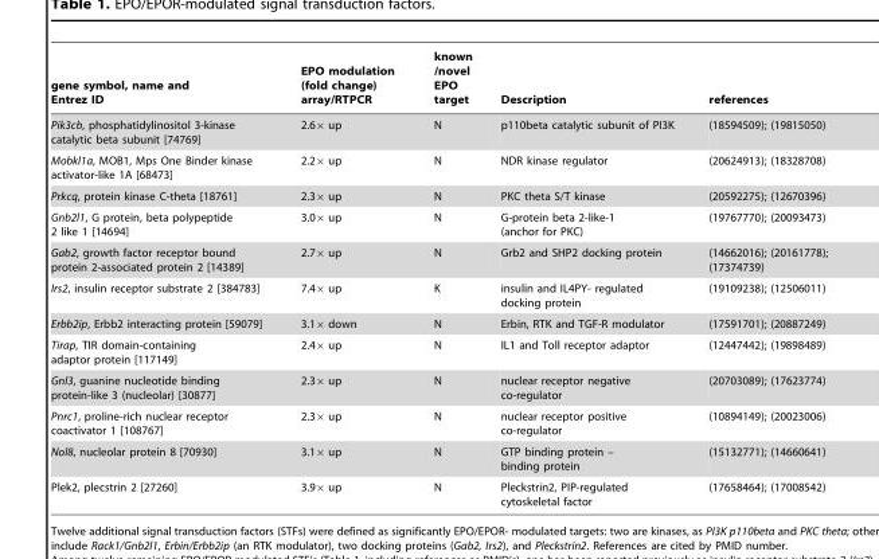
<table><thead><tr><td>gene symbol, name and Entrez ID</td><td>EPO modulation (fold change) array/RTPCR</td><td>known /novel EPO target</td><td>Description</td><td>references</td></tr></thead><tbody><tr><td>Pik3cb, phosphatidylinositol 3-kinase catalytic beta subunit [74769]</td><td>2.6× up</td><td>N</td><td>p110beta catalytic subunit of PI3K</td><td>(18594509); (19815050)</td></tr><tr><td>Mobkl1a, MOB1, Mps One Binder kinase activator-like 1A [68473]</td><td>2.2× up</td><td>N</td><td>NDR kinase regulator</td><td>(20624913); (18328708)</td></tr><tr><td>Prkcq, protein kinase C-theta [18761]</td><td>2.3× up</td><td>N</td><td>PKC theta S/T kinase</td><td>(20592275); (12670396)</td></tr><tr><td>Gnb2l1, G protein, beta polypeptide 2 like 1 [14694]</td><td>3.0× up</td><td>N</td><td>G-protein beta 2-like-1 (anchor for PKC)</td><td>(19767770); (20093473)</td></tr><tr><td>Gab2, growth factor receptor bound protein 2-associated protein 2 [14389]</td><td>2.7× up</td><td>N</td><td>Grb2 and SHP2 docking protein</td><td>(14662016); (20161778); (17374739)</td></tr><tr><td>Irs2, insulin receptor substrate 2 [384783]</td><td>7.4× up</td><td>K</td><td>insulin and IL4PY- regulated docking protein</td><td>(19109238); (12506011)</td></tr><tr><td>Erbb2ip, Erbb2 interacting protein [59079]</td><td>3.1× down</td><td>N</td><td>Erbin, RTK and TGF-R modulator</td><td>(17591701); (20887249)</td></tr><tr><td>Tirap, TIR domain-containing adaptor protein [117149]</td><td>2.4× up</td><td>N</td><td>IL1 and Toll receptor adaptor</td><td>(12447442); (19898489)</td></tr><tr><td>Gnl3, guanine nucleotide binding protein-like 3 (nucleolar) [30877]</td><td>2.3× up</td><td>N</td><td>nuclear receptor negative co-regulator</td><td>(20703089); (17623774)</td></tr><tr><td>Pnrc1, proline-rich nuclear receptor coactivator 1 [108767]</td><td>2.3× up</td><td>N</td><td>nuclear receptor positive co-regulator</td><td>(10894149); (20023006)</td></tr><tr><td>Nol8, nucleolar protein 8 [70930]</td><td>3.1× up</td><td>N</td><td>GTP binding protein – binding protein</td><td>(15132771); (14660641)</td></tr><tr><td>Plek2, plecstrin 2 [27260]</td><td>3.9× up</td><td>N</td><td>Pleckstrin2, PIP-regulated cytoskeletal factor</td><td>(17658464); (17008542)</td></tr></tbody></table>